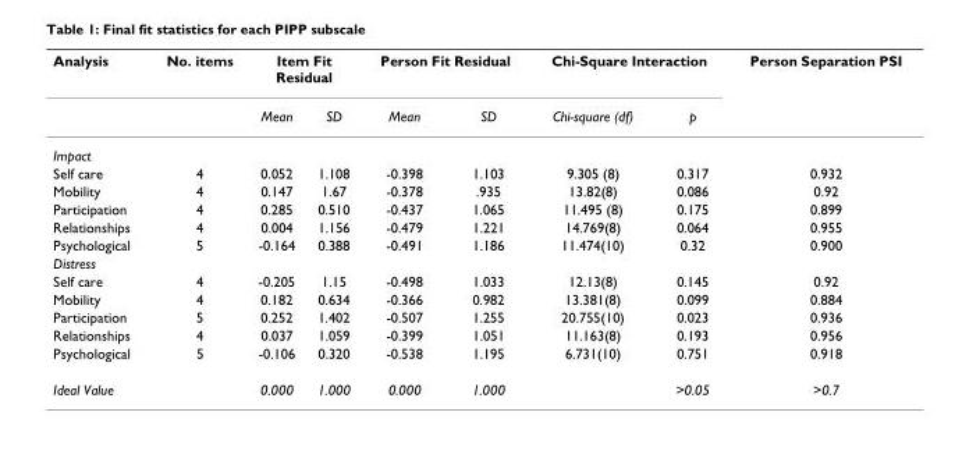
<table><thead><tr><td rowspan="2">Analysis</td><td rowspan="2">No. items</td><td colspan="2">Item Fit Residual</td><td colspan="2">Person Fit Residual</td><td colspan="2">Chi-Square Interaction</td><td rowspan="2">Person Separation PSI</td></tr><tr><td>Mean</td><td>SD</td><td>Mean</td><td>SD</td><td>Chi-square (df)</td><td>p</td></tr></thead><tbody><tr><td colspan="9">Impact</td></tr><tr><td>Self care</td><td>4</td><td>0.052</td><td>1.108</td><td>-0.398</td><td>1.103</td><td>9.305 (8)</td><td>0.317</td><td>0.932</td></tr><tr><td>Mobility</td><td>4</td><td>0.147</td><td>1.67</td><td>-0.378</td><td>.935</td><td>13.82(8)</td><td>0.086</td><td>0.92</td></tr><tr><td>Participation</td><td>4</td><td>0.285</td><td>0.510</td><td>-0.437</td><td>1.065</td><td>11.495 (8)</td><td>0.175</td><td>0.899</td></tr><tr><td>Relationships</td><td>4</td><td>0.004</td><td>1.156</td><td>-0.479</td><td>1.221</td><td>14.769(8)</td><td>0.064</td><td>0.955</td></tr><tr><td>Psychological</td><td>5</td><td>-0.164</td><td>0.388</td><td>-0.491</td><td>1.186</td><td>11.474(10)</td><td>0.32</td><td>0.900</td></tr><tr><td colspan="9">Distress</td></tr><tr><td>Self care</td><td>4</td><td>-0.205</td><td>1.15</td><td>-0.498</td><td>1.033</td><td>12.13(8)</td><td>0.145</td><td>0.92</td></tr><tr><td>Mobility</td><td>4</td><td>0.182</td><td>0.634</td><td>-0.366</td><td>0.982</td><td>13.381(8)</td><td>0.099</td><td>0.884</td></tr><tr><td>Participation</td><td>5</td><td>0.252</td><td>1.402</td><td>-0.507</td><td>1.255</td><td>20.755(10)</td><td>0.023</td><td>0.936</td></tr><tr><td>Relationships</td><td>4</td><td>0.037</td><td>1.059</td><td>-0.399</td><td>1.051</td><td>11.163(8)</td><td>0.193</td><td>0.956</td></tr><tr><td>Psychological</td><td>5</td><td>-0.106</td><td>0.320</td><td>-0.538</td><td>1.195</td><td>6.731(10)</td><td>0.751</td><td>0.918</td></tr><tr><td>Ideal Value</td><td></td><td>0.000</td><td>1.000</td><td>0.000</td><td>1.000</td><td></td><td>&gt;0.05</td><td>&gt;0.7</td></tr></tbody></table>